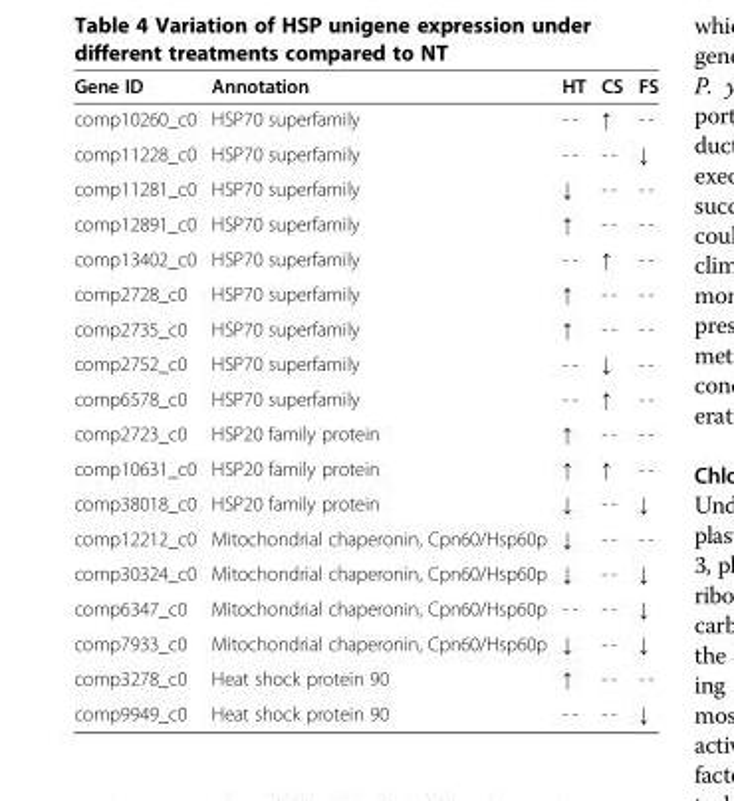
<table><thead><tr><td>Gene ID</td><td>Annotation</td><td>HT</td><td>CS</td><td>FS</td></tr></thead><tbody><tr><td>comp10260_c0</td><td>HSP70 superfamily</td><td>- -</td><td>↑</td><td>- -</td></tr><tr><td>comp11228_c0</td><td>HSP70 superfamily</td><td>- -</td><td>- -</td><td>↓</td></tr><tr><td>comp11281_c0</td><td>HSP70 superfamily</td><td>↓</td><td>- -</td><td>- -</td></tr><tr><td>comp12891_c0</td><td>HSP70 superfamily</td><td>↑</td><td>- -</td><td>- -</td></tr><tr><td>comp13402_c0</td><td>HSP70 superfamily</td><td>- -</td><td>↑</td><td>- -</td></tr><tr><td>comp2728_c0</td><td>HSP70 superfamily</td><td>↑</td><td>- -</td><td>- -</td></tr><tr><td>comp2735_c0</td><td>HSP70 superfamily</td><td>↑</td><td>- -</td><td>- -</td></tr><tr><td>comp2752_c0</td><td>HSP70 superfamily</td><td>- -</td><td>↓</td><td>- -</td></tr><tr><td>comp6578_c0</td><td>HSP70 superfamily</td><td>- -</td><td>↑</td><td>- -</td></tr><tr><td>comp2723_c0</td><td>HSP20 family protein</td><td>↑</td><td>- -</td><td>- -</td></tr><tr><td>comp10631_c0</td><td>HSP20 family protein</td><td>↑</td><td>↑</td><td>- -</td></tr><tr><td>comp38018_c0</td><td>HSP20 family protein</td><td>↓</td><td>- -</td><td>↓</td></tr><tr><td>comp12212_c0</td><td>Mitochondrial chaperonin, Cpn60/Hsp60p</td><td>↓</td><td>- -</td><td>- -</td></tr><tr><td>comp30324_c0</td><td>Mitochondrial chaperonin, Cpn60/Hsp60p</td><td>↓</td><td>- -</td><td>↓</td></tr><tr><td>comp6347_c0</td><td>Mitochondrial chaperonin, Cpn60/Hsp60p</td><td>- -</td><td>- -</td><td>↓</td></tr><tr><td>comp7933_c0</td><td>Mitochondrial chaperonin, Cpn60/Hsp60p</td><td>↓</td><td>- -</td><td>↓</td></tr><tr><td>comp3278_c0</td><td>Heat shock protein 90</td><td>↑</td><td>- -</td><td>- -</td></tr><tr><td>comp9949_c0</td><td>Heat shock protein 90</td><td>- -</td><td>- -</td><td>↓</td></tr></tbody></table>